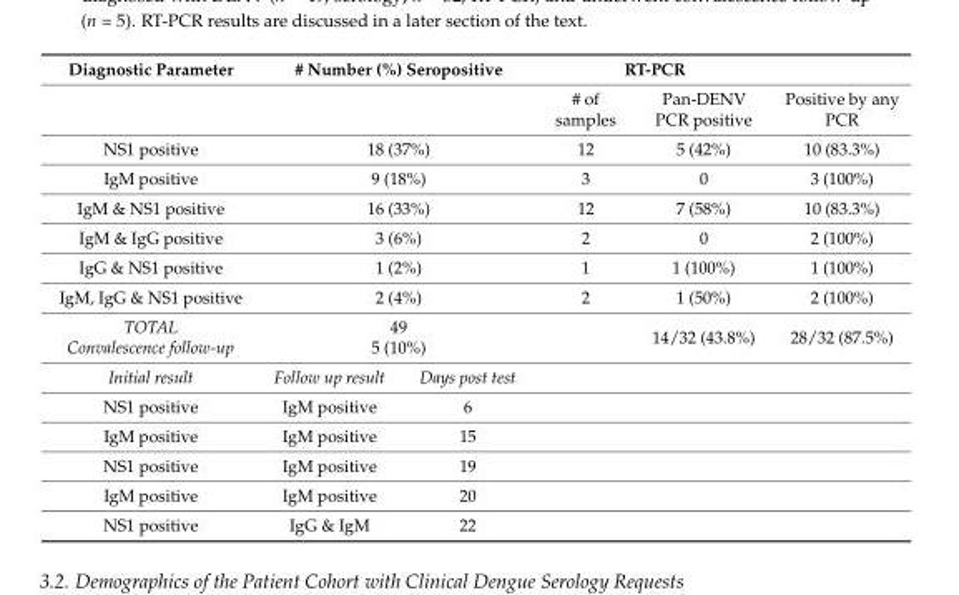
<table><thead><tr><td>Diagnostic Parameter</td><td colspan="2"># Number (%) Seropositive</td><td colspan="2">RT-PCR</td><td></td></tr></thead><tbody><tr><td></td><td colspan="2"></td><td># of samples</td><td>Pan-DENV PCR positive</td><td>Positive by any PCR</td></tr><tr><td>NS1 positive</td><td colspan="2">18 (37%)</td><td>12</td><td>5 (42%)</td><td>10 (83.3%)</td></tr><tr><td>IgM positive</td><td colspan="2">9 (18%)</td><td>3</td><td>0</td><td>3 (100%)</td></tr><tr><td>IgM &amp; NS1 positive</td><td colspan="2">16 (33%)</td><td>12</td><td>7 (58%)</td><td>10 (83.3%)</td></tr><tr><td>IgM &amp; IgG positive</td><td colspan="2">3 (6%)</td><td>2</td><td>0</td><td>2 (100%)</td></tr><tr><td>IgG &amp; NS1 positive</td><td colspan="2">1 (2%)</td><td>1</td><td>1 (100%)</td><td>1 (100%)</td></tr><tr><td>IgM, IgG &amp; NS1 positive</td><td colspan="2">2 (4%)</td><td>2</td><td>1 (50%)</td><td>2 (100%)</td></tr><tr><td>TOTAL Convalescence follow-up</td><td colspan="2">49 5 (10%)</td><td></td><td>14/32 (43.8%)</td><td>28/32 (87.5%)</td></tr><tr><td>Initial result</td><td>Follow up result</td><td>Days post test</td><td></td><td></td><td></td></tr><tr><td>NS1 positive</td><td>IgM positive</td><td>6</td><td></td><td></td><td></td></tr><tr><td>IgM positive</td><td>IgM positive</td><td>15</td><td></td><td></td><td></td></tr><tr><td>NS1 positive</td><td>IgM positive</td><td>19</td><td></td><td></td><td></td></tr><tr><td>IgM positive</td><td>IgM positive</td><td>20</td><td></td><td></td><td></td></tr><tr><td>NS1 positive</td><td>IgG &amp; IgM</td><td>22</td><td></td><td></td><td></td></tr></tbody></table>